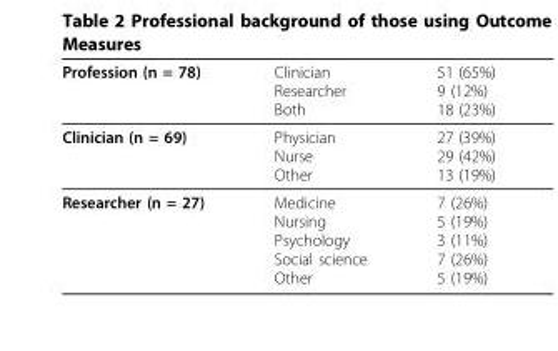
<table><thead><tr><td>Profession (n = 78)</td><td>Clinician Researcher Both</td><td>51 (65%) 9 (12%) 18 (23%)</td></tr></thead><tbody><tr><td>Clinician (n = 69)</td><td>Physician Nurse Other</td><td>27 (39%) 29 (42%) 13 (19%)</td></tr><tr><td>Researcher (n = 27)</td><td>Medicine Nursing Psychology Social science Other</td><td>7 (26%) 5 (19%) 3 (11%) 7 (26%) 5 (19%)</td></tr></tbody></table>